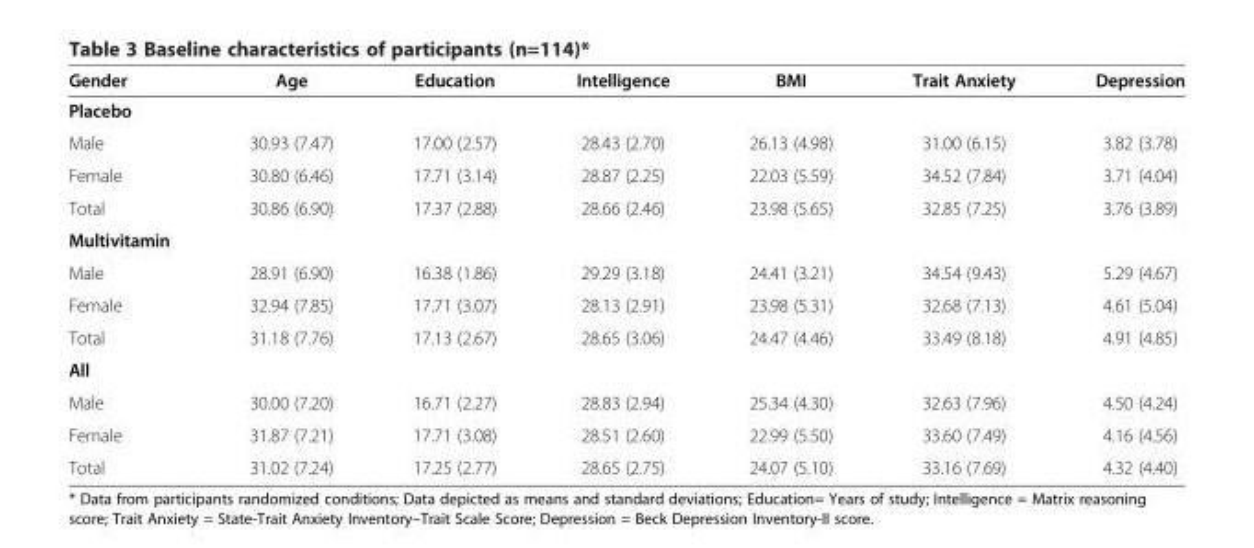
<table><thead><tr><td>Gender</td><td>Age</td><td>Education</td><td>Intelligence</td><td>BMI</td><td>Trait Anxiety</td><td>Depression</td></tr></thead><tbody><tr><td colspan="7">Placebo</td></tr><tr><td>Male</td><td>30.93 (7.47)</td><td>17.00 (2.57)</td><td>28.43 (2.70)</td><td>26.13 (4.98)</td><td>31.00 (6.15)</td><td>3.82 (3.78)</td></tr><tr><td>Female</td><td>30.80 (6.46)</td><td>17.71 (3.14)</td><td>28.87 (2.25)</td><td>22.03 (5.59)</td><td>34.52 (7.84)</td><td>3.71 (4.04)</td></tr><tr><td>Total</td><td>30.86 (6.90)</td><td>17.37 (2.88)</td><td>28.66 (2.46)</td><td>23.98 (5.65)</td><td>32.85 (7.25)</td><td>3.76 (3.89)</td></tr><tr><td colspan="7">Multivitamin</td></tr><tr><td>Male</td><td>28.91 (6.90)</td><td>16.38 (1.86)</td><td>29.29 (3.18)</td><td>24.41 (3.21)</td><td>34.54 (9.43)</td><td>5.29 (4.67)</td></tr><tr><td>Female</td><td>32.94 (7.85)</td><td>17.71 (3.07)</td><td>28.13 (2.91)</td><td>23.98 (5.31)</td><td>32.68 (7.13)</td><td>4.61 (5.04)</td></tr><tr><td>Total</td><td>31.18 (7.76)</td><td>17.13 (2.67)</td><td>28.65 (3.06)</td><td>24.47 (4.46)</td><td>33.49 (8.18)</td><td>4.91 (4.85)</td></tr><tr><td colspan="7">All</td></tr><tr><td>Male</td><td>30.00 (7.20)</td><td>16.71 (2.27)</td><td>28.83 (2.94)</td><td>25.34 (4.30)</td><td>32.63 (7.96)</td><td>4.50 (4.24)</td></tr><tr><td>Female</td><td>31.87 (7.21)</td><td>17.71 (3.08)</td><td>28.51 (2.60)</td><td>22.99 (5.50)</td><td>33.60 (7.49)</td><td>4.16 (4.56)</td></tr><tr><td>Total</td><td>31.02 (7.24)</td><td>17.25 (2.77)</td><td>28.65 (2.75)</td><td>24.07 (5.10)</td><td>33.16 (7.69)</td><td>4.32 (4.40)</td></tr></tbody></table>